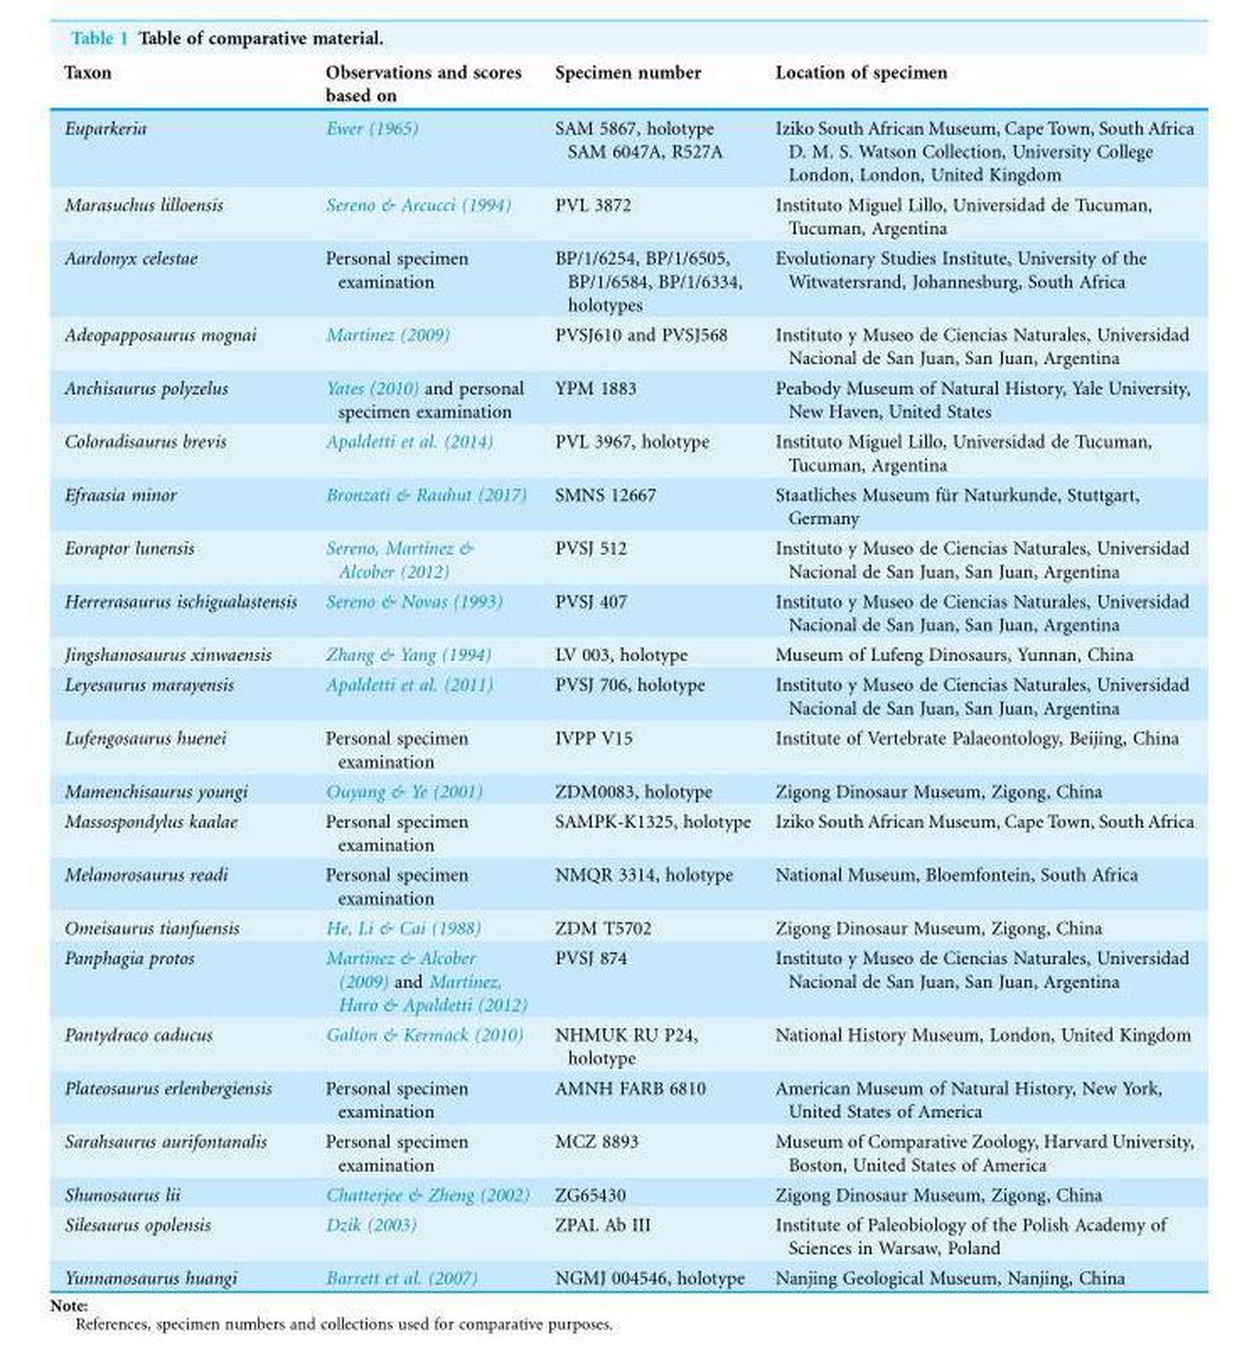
<table><thead><tr><td>Taxon</td><td>Observations and scores based on</td><td>Specimen number</td><td>Location of specimen</td></tr></thead><tbody><tr><td>Euparkeria</td><td>Ewer (1965)</td><td>SAM 5867, holotype SAM 6047A, R527A</td><td>Iziko South African Museum, Cape Town, South Africa D. M. S. Watson Collection, University College London, London, United Kingdom</td></tr><tr><td>Marasuchus lilloensis</td><td>Sereno &amp; Arcucci (1994)</td><td>PVL 3872</td><td>Instituto Miguel Lillo, Universidad de Tucuman, Tucuman, Argentina</td></tr><tr><td>Aardonyx celestae</td><td>Personal specimen examination</td><td>BP/1/6254, BP/1/6505, BP/1/6584, BP/1/6334, holotypes</td><td>Evolutionary Studies Institute, University of the Witwatersrand, Johannesburg, South Africa</td></tr><tr><td>Adeopapposaurus mognai</td><td>Martı´nez (2009)</td><td>PVSJ610 and PVSJ568</td><td>Instituto y Museo de Ciencias Naturales, Universidad Nacional de San Juan, San Juan, Argentina</td></tr><tr><td>Anchisaurus polyzelus</td><td>Yates (2010) and personal specimen examination</td><td>YPM 1883</td><td>Peabody Museum of Natural History, Yale University, New Haven, United States</td></tr><tr><td>Coloradisaurus brevis</td><td>Apaldetti et al. (2014)</td><td>PVL 3967, holotype</td><td>Instituto Miguel Lillo, Universidad de Tucuman, Tucuman, Argentina</td></tr><tr><td>Efraasia minor</td><td>Bronzati &amp; Rauhut (2017)</td><td>SMNS 12667</td><td>Staatliches Museum fu¨r Naturkunde, Stuttgart, Germany</td></tr><tr><td>Eoraptor lunensis</td><td>Sereno, Martı´nez &amp; Alcober (2012)</td><td>PVSJ 512</td><td>Instituto y Museo de Ciencias Naturales, Universidad Nacional de San Juan, San Juan, Argentina</td></tr><tr><td>Herrerasaurus ischigualastensis</td><td>Sereno &amp; Novas (1993)</td><td>PVSJ 407</td><td>Instituto y Museo de Ciencias Naturales, Universidad Nacional de San Juan, San Juan, Argentina</td></tr><tr><td>Jingshanosaurus xinwaensis</td><td>Zhang &amp; Yang (1994)</td><td>LV 003, holotype</td><td>Museum of Lufeng Dinosaurs, Yunnan, China</td></tr><tr><td>Leyesaurus marayensis</td><td>Apaldetti et al. (2011)</td><td>PVSJ 706, holotype</td><td>Instituto y Museo de Ciencias Naturales, Universidad Nacional de San Juan, San Juan, Argentina</td></tr><tr><td>Lufengosaurus huenei</td><td>Personal specimen examination</td><td>IVPP V15</td><td>Institute of Vertebrate Palaeontology, Beijing, China</td></tr><tr><td>Mamenchisaurus youngi</td><td>Ouyang &amp; Ye (2001)</td><td>ZDM0083, holotype</td><td>Zigong Dinosaur Museum, Zigong, China</td></tr><tr><td>Massospondylus kaalae</td><td>Personal specimen examination</td><td>SAMPK-K1325, holotype</td><td>Iziko South African Museum, Cape Town, South Africa</td></tr><tr><td>Melanorosaurus readi</td><td>Personal specimen examination</td><td>NMQR 3314, holotype</td><td>National Museum, Bloemfontein, South Africa</td></tr><tr><td>Omeisaurus tianfuensis</td><td>He, Li &amp; Cai (1988)</td><td>ZDM T5702</td><td>Zigong Dinosaur Museum, Zigong, China</td></tr><tr><td>Panphagia protos</td><td>Martinez &amp; Alcober (2009) and Martı´nez, Haro &amp; Apaldetti (2012)</td><td>PVSJ 874</td><td>Instituto y Museo de Ciencias Naturales, Universidad Nacional de San Juan, San Juan, Argentina</td></tr><tr><td>Pantydraco caducus</td><td>Galton &amp; Kermack (2010)</td><td>NHMUK RU P24, holotype</td><td>National History Museum, London, United Kingdom</td></tr><tr><td>Plateosaurus erlenbergiensis</td><td>Personal specimen examination</td><td>AMNH FARB 6810</td><td>American Museum of Natural History, New York, United States of America</td></tr><tr><td>Sarahsaurus aurifontanalis</td><td>Personal specimen examination</td><td>MCZ 8893</td><td>Museum of Comparative Zoology, Harvard University, Boston, United States of America</td></tr><tr><td>Shunosaurus lii</td><td>Chatterjee &amp; Zheng (2002)</td><td>ZG65430</td><td>Zigong Dinosaur Museum, Zigong, China</td></tr><tr><td>Silesaurus opolensis</td><td>Dzik (2003)</td><td>ZPAL Ab III</td><td>Institute of Paleobiology of the Polish Academy of Sciences in Warsaw, Poland</td></tr><tr><td>Yunnanosaurus huangi</td><td>Barrett et al. (2007)</td><td>NGMJ 004546, holotype</td><td>Nanjing Geological Museum, Nanjing, China</td></tr></tbody></table>